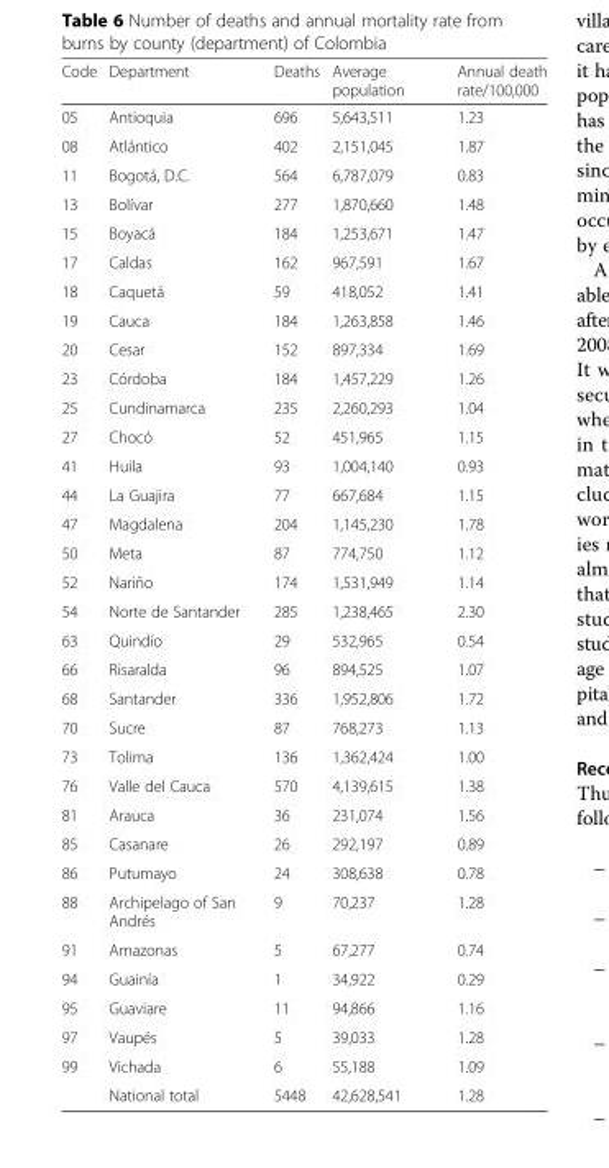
<table><thead><tr><td>Code</td><td>Department</td><td>Deaths</td><td>Average population</td><td>Annual death rate/100,000</td></tr></thead><tbody><tr><td>05</td><td>Antioquia</td><td>696</td><td>5,643,511</td><td>1.23</td></tr><tr><td>08</td><td>Atlántico</td><td>402</td><td>2,151,045</td><td>1.87</td></tr><tr><td>11</td><td>Bogotá, D.C.</td><td>564</td><td>6,787,079</td><td>0.83</td></tr><tr><td>13</td><td>Bolívar</td><td>277</td><td>1,870,660</td><td>1.48</td></tr><tr><td>15</td><td>Boyacá</td><td>184</td><td>1,253,671</td><td>1.47</td></tr><tr><td>17</td><td>Caldas</td><td>162</td><td>967,591</td><td>1.67</td></tr><tr><td>18</td><td>Caquetá</td><td>59</td><td>418,052</td><td>1.41</td></tr><tr><td>19</td><td>Cauca</td><td>184</td><td>1,263,858</td><td>1.46</td></tr><tr><td>20</td><td>Cesar</td><td>152</td><td>897,334</td><td>1.69</td></tr><tr><td>23</td><td>Córdoba</td><td>184</td><td>1,457,229</td><td>1.26</td></tr><tr><td>25</td><td>Cundinamarca</td><td>235</td><td>2,260,293</td><td>1.04</td></tr><tr><td>27</td><td>Chocó</td><td>52</td><td>451,965</td><td>1.15</td></tr><tr><td>41</td><td>Huila</td><td>93</td><td>1,004,140</td><td>0.93</td></tr><tr><td>44</td><td>La Guajira</td><td>77</td><td>667,684</td><td>1.15</td></tr><tr><td>47</td><td>Magdalena</td><td>204</td><td>1,145,230</td><td>1.78</td></tr><tr><td>50</td><td>Meta</td><td>87</td><td>774,750</td><td>1.12</td></tr><tr><td>52</td><td>Nariño</td><td>174</td><td>1,531,949</td><td>1.14</td></tr><tr><td>54</td><td>Norte de Santander</td><td>285</td><td>1,238,465</td><td>2.30</td></tr><tr><td>63</td><td>Quindío</td><td>29</td><td>532,965</td><td>0.54</td></tr><tr><td>66</td><td>Risaralda</td><td>96</td><td>894,525</td><td>1.07</td></tr><tr><td>68</td><td>Santander</td><td>336</td><td>1,952,806</td><td>1.72</td></tr><tr><td>70</td><td>Sucre</td><td>87</td><td>768,273</td><td>1.13</td></tr><tr><td>73</td><td>Tolima</td><td>136</td><td>1,362,424</td><td>1.00</td></tr><tr><td>76</td><td>Valle del Cauca</td><td>570</td><td>4,139,615</td><td>1.38</td></tr><tr><td>81</td><td>Arauca</td><td>36</td><td>231,074</td><td>1.56</td></tr><tr><td>85</td><td>Casanare</td><td>26</td><td>292,197</td><td>0.89</td></tr><tr><td>86</td><td>Putumayo</td><td>24</td><td>308,638</td><td>0.78</td></tr><tr><td>88</td><td>Archipelago of San Andrés</td><td>9</td><td>70,237</td><td>1.28</td></tr><tr><td>91</td><td>Amazonas</td><td>5</td><td>67,277</td><td>0.74</td></tr><tr><td>94</td><td>Guainía</td><td>1</td><td>34,922</td><td>0.29</td></tr><tr><td>95</td><td>Guaviare</td><td>11</td><td>94,866</td><td>1.16</td></tr><tr><td>97</td><td>Vaupés</td><td>5</td><td>39,033</td><td>1.28</td></tr><tr><td rowspan="2">99</td><td>Vichada</td><td>6</td><td>55,188</td><td>1.09</td></tr><tr><td>National total</td><td>5448</td><td>42,628,541</td><td>1.28</td></tr></tbody></table>